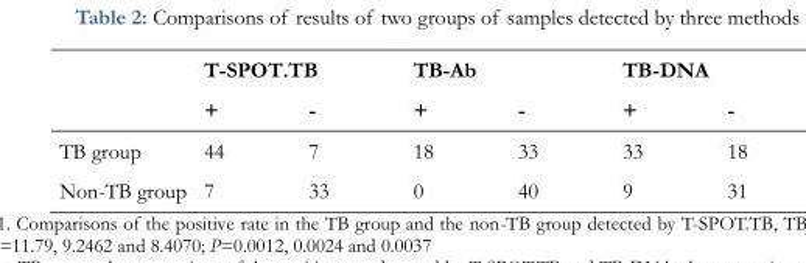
<table><thead><tr><td rowspan="2"></td><td colspan="2">T-SPOT.TB</td><td colspan="2">TB-Ab</td><td colspan="2">TB-DNA</td></tr><tr><td>+</td><td>-</td><td>+</td><td>-</td><td>+</td><td>-</td></tr></thead><tbody><tr><td>TB group</td><td>44</td><td>7</td><td>18</td><td>33</td><td>33</td><td>18</td></tr><tr><td>Non-TB group</td><td>7</td><td>33</td><td>0</td><td>40</td><td>9</td><td>31</td></tr></tbody></table>